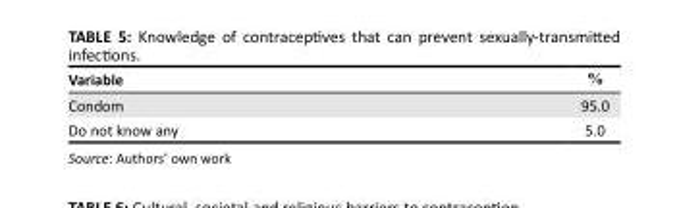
<table><thead><tr><td>Variable</td><td>%</td></tr></thead><tbody><tr><td>Condom</td><td>95.0</td></tr><tr><td>Do not know any</td><td>5.0</td></tr></tbody></table>